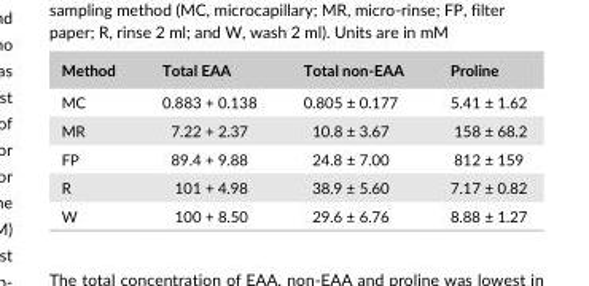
<table><thead><tr><td>Method</td><td>Total EAA</td><td>Total non- EAA</td><td>Proline</td></tr></thead><tbody><tr><td>MC</td><td>0.883 + 0.138</td><td>0.805 ± 0.177</td><td>5.41 ± 1.62</td></tr><tr><td>MR</td><td>7.22 + 2.37</td><td>10.8 ± 3.67</td><td>158 ± 68.2</td></tr><tr><td>FP</td><td>89.4 + 9.88</td><td>24.8 ± 7.00</td><td>812 ± 159</td></tr><tr><td>R</td><td>101 + 4.98</td><td>38.9 ± 5.60</td><td>7.17 ± 0.82</td></tr><tr><td>W</td><td>100 + 8.50</td><td>29.6 ± 6.76</td><td>8.88 ± 1.27</td></tr></tbody></table>